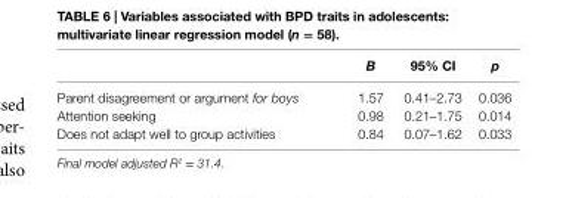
<table><thead><tr><td></td><td>B</td><td>95% ci</td><td>p</td></tr></thead><tbody><tr><td>Parent disagreement or argument for boys</td><td>1.57</td><td>0.41–2.73</td><td>0.036</td></tr><tr><td>Attention seeking</td><td>0.98</td><td>0.21–1.75</td><td>0.014</td></tr><tr><td>Does not adapt well to group activities</td><td>0.84</td><td>0.07–1.62</td><td>0.033</td></tr></tbody></table>